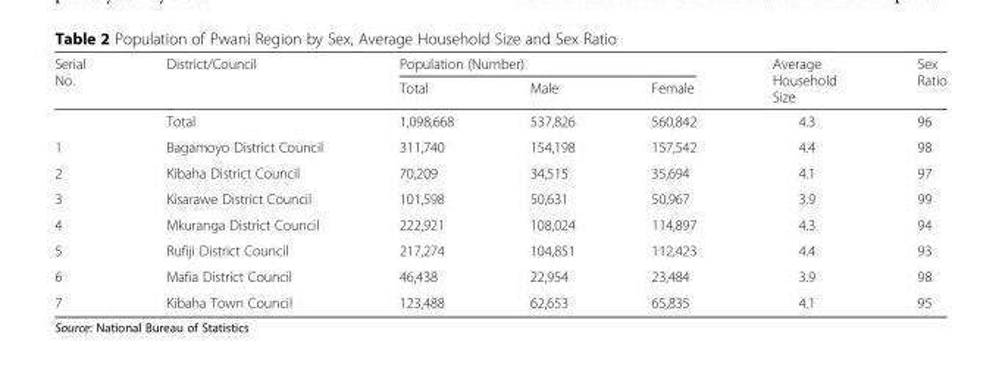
<table><thead><tr><td rowspan="2">Serial No.</td><td rowspan="2">District/Council</td><td colspan="3">Population (Number)</td><td rowspan="2">Average Household Size</td><td rowspan="2">Sex Ratio</td></tr><tr><td>Total</td><td>Male</td><td>Female</td></tr></thead><tbody><tr><td></td><td>Total</td><td>1,098,668</td><td>537,826</td><td>560,842</td><td>4.3</td><td>96</td></tr><tr><td>1</td><td>Bagamoyo District Council</td><td>311,740</td><td>154,198</td><td>157,542</td><td>4.4</td><td>98</td></tr><tr><td>2</td><td>Kibaha District Council</td><td>70,209</td><td>34,515</td><td>35,694</td><td>4.1</td><td>97</td></tr><tr><td>3</td><td>Kisarawe District Council</td><td>101,598</td><td>50,631</td><td>50,967</td><td>3.9</td><td>99</td></tr><tr><td>4</td><td>Mkuranga District Council</td><td>222,921</td><td>108,024</td><td>114,897</td><td>4.3</td><td>94</td></tr><tr><td>5</td><td>Rufiji District Council</td><td>217,274</td><td>104,851</td><td>112,423</td><td>4.4</td><td>93</td></tr><tr><td>6</td><td>Mafia District Council</td><td>46,438</td><td>22,954</td><td>23,484</td><td>3.9</td><td>98</td></tr><tr><td>7</td><td>Kibaha Town Council</td><td>123,488</td><td>62,653</td><td>65,835</td><td>4.1</td><td>95</td></tr></tbody></table>